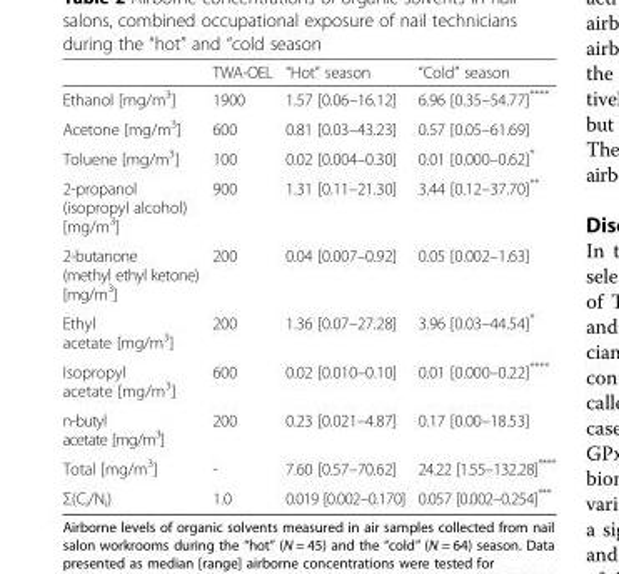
<table><thead><tr><td></td><td>TWA-OEL</td><td>“Hot” season</td><td>“Cold” season</td></tr></thead><tbody><tr><td>Ethanol [mg/m<sup>3</sup>]</td><td>1900</td><td>1.57 [0.06–16.12]</td><td>6.96 [0.35–54.77]****</td></tr><tr><td>Acetone [mg/m<sup>3</sup>]</td><td>600</td><td>0.81 [0.03–43.23]</td><td>0.57 [0.05–61.69]</td></tr><tr><td>Toluene [mg/m<sup>3</sup>]</td><td>100</td><td>0.02 [0.004–0.30]</td><td>0.01 [0.000–0.62]*</td></tr><tr><td>2-propanol (isopropyl alcohol) [mg/m<sup>3</sup>]</td><td>900</td><td>1.31 [0.11–21.30]</td><td>3.44 [0.12–37.70]**</td></tr><tr><td>2-butanone (methyl ethyl ketone) [mg/m<sup>3</sup>]</td><td>200</td><td>0.04 [0.007–0.92]</td><td>0.05 [0.002–1.63]</td></tr><tr><td>Ethyl acetate [mg/m<sup>3</sup>]</td><td>200</td><td>1.36 [0.07–27.28]</td><td>3.96 [0.03–44.54]*</td></tr><tr><td>Isopropyl acetate [mg/m<sup>3</sup>]</td><td>600</td><td>0.02 [0.010–0.10]</td><td>0.01 [0.000–0.22]****</td></tr><tr><td>n-butyl acetate [mg/m<sup>3</sup>]</td><td>200</td><td>0.23 [0.021–4.87]</td><td>0.17 [0.00–18.53]</td></tr><tr><td>Total [mg/m<sup>3</sup>]</td><td>-</td><td>7.60 [0.57–70.62]</td><td>24.22 [1.55–132.28]****</td></tr><tr><td>Σ(C<sub>i</sub>/N<sub>i</sub>)</td><td>1.0</td><td>0.019 [0.002–0.170]</td><td>0.057 [0.002–0.254]***</td></tr></tbody></table>